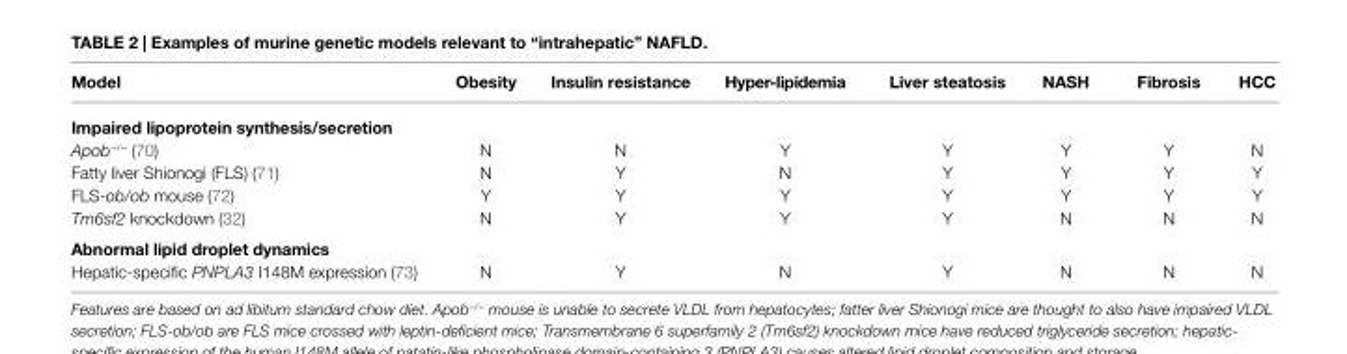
<table><thead><tr><td>Model</td><td>Obesity</td><td>insulin resistance</td><td>Hyper-lipidemia</td><td>Liver steatosis</td><td>NASH</td><td>Fibrosis</td><td>HCC</td></tr></thead><tbody><tr><td colspan="8">impaired lipoprotein synthesis/secretion</td></tr><tr><td>Apob<sup>−/−</sup> (70)</td><td>N</td><td>N</td><td>Y</td><td>Y</td><td>Y</td><td>Y</td><td>N</td></tr><tr><td>Fatty liver Shionogi (FLS) (71)</td><td>N</td><td>Y</td><td>N</td><td>Y</td><td>Y</td><td>Y</td><td>Y</td></tr><tr><td>FLS-ob/ob mouse (72)</td><td>Y</td><td>Y</td><td>Y</td><td>Y</td><td>Y</td><td>Y</td><td>Y</td></tr><tr><td>Tm6sf2 knockdown (32)</td><td>N</td><td>Y</td><td>Y</td><td>Y</td><td>N</td><td>N</td><td>N</td></tr><tr><td colspan="8">Abnormal lipid droplet dynamics</td></tr><tr><td>Hepatic-specific PNPLA3 I148M expression (73)</td><td>N</td><td>Y</td><td>N</td><td>Y</td><td>N</td><td>N</td><td>N</td></tr></tbody></table>